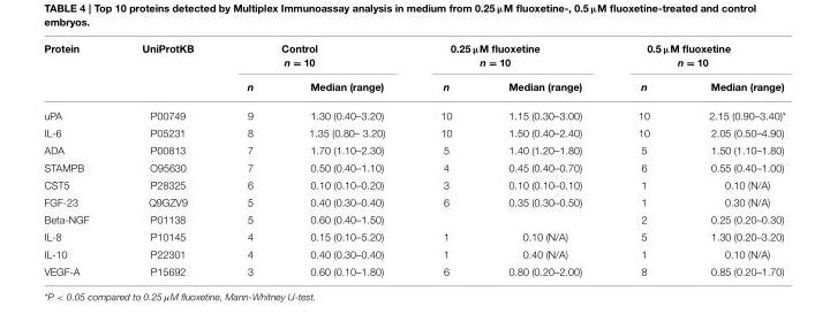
<table><thead><tr><td rowspan="2">Protein</td><td rowspan="2">UniProtKB</td><td colspan="2">Control n = 10</td><td colspan="2">0.25 µM fluoxetine n = 10</td><td colspan="2">0.5 µM fluoxetine n = 10</td></tr><tr><td>n</td><td>Median (range)</td><td>n</td><td>Median (range)</td><td>n</td><td>Median (range)</td></tr></thead><tbody><tr><td>uPA</td><td>P00749</td><td>9</td><td>1.30 (0.40–3.20)</td><td>10</td><td>1.15 (0.30–3.00)</td><td>10</td><td>2.15 (0.90–3.40)*</td></tr><tr><td>IL-6</td><td>P05231</td><td>8</td><td>1.35 (0.80– 3.20)</td><td>10</td><td>1.50 (0.40–2.40)</td><td>10</td><td>2.05 (0.50–4.90)</td></tr><tr><td>ADA</td><td>P00813</td><td>7</td><td>1.70 (1.10–2.30)</td><td>5</td><td>1.40 (1.20–1.80)</td><td>5</td><td>1.50 (1.10–1.80)</td></tr><tr><td>STAMPB</td><td>O95630</td><td>7</td><td>0.50 (0.40–1.10)</td><td>4</td><td>0.45 (0.40–0.70)</td><td>6</td><td>0.55 (0.40–1.00)</td></tr><tr><td>CST5</td><td>P28325</td><td>6</td><td>0.10 (0.10–0.20)</td><td>3</td><td>0.10 (0.10–0.10)</td><td>1</td><td>0.10 (N/A)</td></tr><tr><td>FGF-23</td><td>Q9GZV9</td><td>5</td><td>0.40 (0.30–0.40)</td><td>6</td><td>0.35 (0.30–0.50)</td><td>1</td><td>0.30 (N/A)</td></tr><tr><td>Beta-NGF</td><td>P01138</td><td>5</td><td>0.60 (0.40–1.50)</td><td></td><td></td><td>2</td><td>0.25 (0.20–0.30)</td></tr><tr><td>IL-8</td><td>P10145</td><td>4</td><td>0.15 (0.10–5.20)</td><td>1</td><td>0.10 (N/A)</td><td>5</td><td>1.30 (0.20–3.20)</td></tr><tr><td>IL-10</td><td>P22301</td><td>4</td><td>0.40 (0.30–0.40)</td><td>1</td><td>0.40 (N/A)</td><td>1</td><td>0.10 (N/A)</td></tr><tr><td>VEGF-A</td><td>P15692</td><td>3</td><td>0.60 (0.10–1.80)</td><td>6</td><td>0.80 (0.20–2.00)</td><td>8</td><td>0.85 (0.20–1.70)</td></tr></tbody></table>